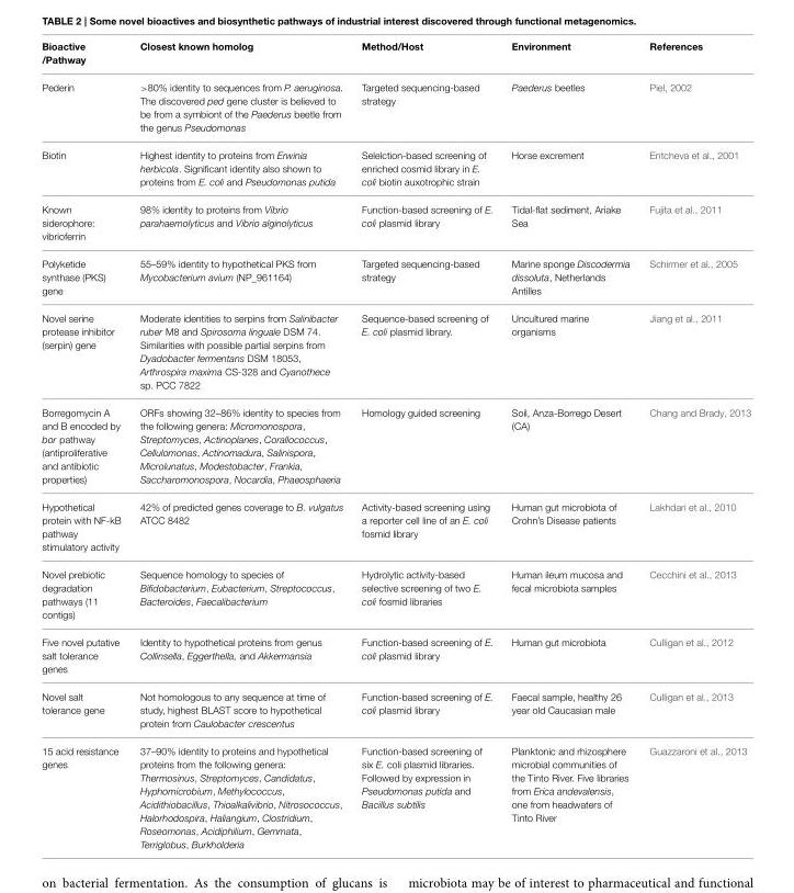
<table><thead><tr><td>Bioactive /Pathway</td><td>Closest known homolog</td><td>Method/Host</td><td>Environment</td><td>References</td></tr></thead><tbody><tr><td>Pederin</td><td>&gt;80% identity to sequences from P. aeruginosa. The discovered ped gene cluster is believed to be from a symbiont of the Paederus beetle from the genus Pseudomonas</td><td>Targeted sequencing-based strategy</td><td>Paederus beetles</td><td>Piel, 2002</td></tr><tr><td>Biotin</td><td>Highest identity to proteins from Erwinia herbicola. Significant identity also shown to proteins from E. coli and Pseudomonas putida</td><td>Selelction-based screening of enriched cosmid library in E. coli biotin auxotrophic strain</td><td>Horse excrement</td><td>Entcheva et al., 2001</td></tr><tr><td>Known siderophore: vibrioferrin</td><td>98% identity to proteins from Vibrio parahaemolyticus and Vibrio alginolyticus</td><td>Function-based screening of E. coli plasmid library</td><td>Tidal-flat sediment, Ariake Sea</td><td>Fujita et al., 2011</td></tr><tr><td>Polyketide synthase (PKS) gene</td><td>55–59% identity to hypothetical PKS from Mycobacterium avium (NP_961164)</td><td>Targeted sequencing-based strategy</td><td>Marine sponge Discodermia dissoluta, Netherlands Antilles</td><td>Schirmer et al., 2005</td></tr><tr><td>Novel serine protease inhibitor (serpin) gene</td><td>Moderate identities to serpins from Salinibacter ruber M8 and Spirosoma linguale DSM 74. Similarities with possible partial serpins from Dyadobacter fermentans DSM 18053, Arthrospira maxima CS-328 and Cyanothece sp. PCC 7822</td><td>Sequence-based screening of E. coli plasmid library.</td><td>Uncultured marine organisms</td><td>Jiang et al., 2011</td></tr><tr><td>Borregomycin A and B encoded by bor pathway (antiproliferative and antibiotic properties)</td><td>ORFs showing 32–86% identity to species from the following genera: Micromonospora, Streptomyces, Actinoplanes, Corallococcus, Cellulomonas, Actinomadura, Salinispora, Microlunatus, Modestobacter, Frankia, Saccharomonospora, Nocardia, Phaeosphaeria</td><td>Homology guided screening</td><td>Soil, Anza-Borrego Desert (CA)</td><td>Chang and Brady, 2013</td></tr><tr><td>Hypothetical protein with NF-kB pathway stimulatory activity</td><td>42% of predicted genes coverage to B. vulgatus ATCC 8482</td><td>Activity-based screening using a reporter cell line of an E. coli fosmid library</td><td>Human gut microbiota of Crohn’s Disease patients</td><td>Lakhdari et al., 2010</td></tr><tr><td>Novel prebiotic degradation pathways (11 contigs)</td><td>Sequence homology to species of Bifidobacterium, Eubacterium, Streptococcus, Bacteroides, Faecalibacterium</td><td>Hydrolytic activity-based selective screening of two E. coli fosmid libraries</td><td>Human ileum mucosa and fecal microbiota samples</td><td>Cecchini et al., 2013</td></tr><tr><td>Five novel putative salt tolerance genes</td><td>Identity to hypothetical proteins from genus Collinsella, Eggerthella, and Akkermansia</td><td>Function-based screening of E. coli plasmid library</td><td>Human gut microbiota</td><td>Culligan et al., 2012</td></tr><tr><td>Novel salt tolerance gene</td><td>Not homologous to any sequence at time of study, highest BLAST score to hypothetical protein from Caulobacter crescentus</td><td>Function-based screening of E. coli plasmid library</td><td>Faecal sample, healthy 26 year old Caucasian male</td><td>Culligan et al., 2013</td></tr><tr><td>15 acid resistance genes</td><td>37–90% identity to proteins and hypothetical proteins from the following genera: Thermosinus, Streptomyces, Candidatus, Hyphomicrobium, Methylococcus, Acidithiobacillus, Thioalkalivibrio, Nitrosococcus, Halorhodospira, Haliangium, Clostridium, Roseomonas, Acidiphilium, Gemmata, Terriglobus, Burkholderia</td><td>Function-based screening of six E. coli plasmid libraries. Followed by expression in Pseudomonas putida and Bacillus subtilis</td><td>Planktonic and rhizosphere microbial communities of the Tinto River. Five libraries from Erica andevalensis, one from headwaters of Tinto River</td><td>Guazzaroni et al., 2013</td></tr></tbody></table>